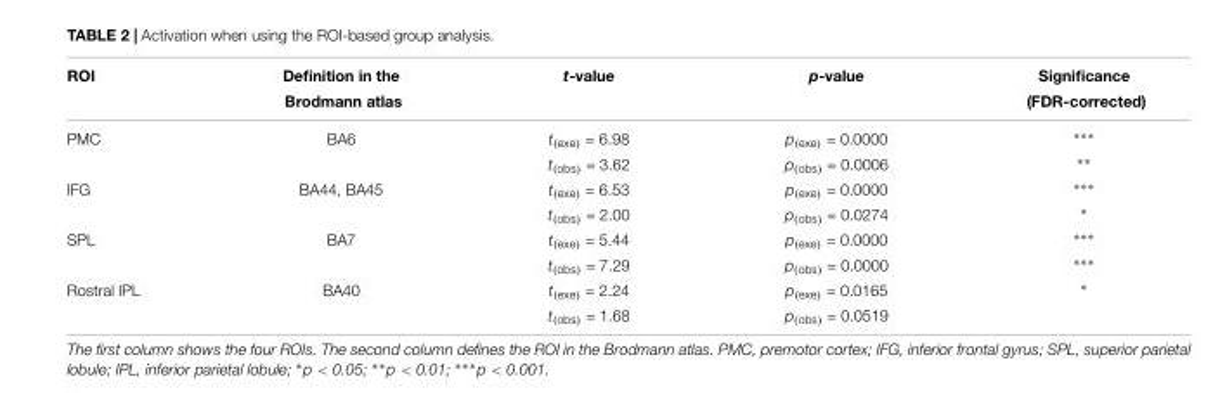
<table><thead><tr><td rowspan="2">ROI</td><td rowspan="2">Definition in the Brodmann atlas</td><td rowspan="2">t-value</td><td rowspan="2">p-value</td><td rowspan="2">Significance (FDR-corrected)</td></tr><tr></tr></thead><tbody><tr><td rowspan="2">PMC</td><td>BA6</td><td>t<sub>(exe)</sub> = 6.98</td><td>p<sub>(exe)</sub> = 0.0000</td><td>∗∗∗</td></tr><tr><td></td><td>t<sub>(obs)</sub> = 3.62</td><td>p<sub>(obs)</sub> = 0.0006</td><td>∗∗</td></tr><tr><td rowspan="2">IFG</td><td>BA44, BA45</td><td>t<sub>(exe)</sub> = 6.53</td><td>p<sub>(exe)</sub> = 0.0000</td><td>∗∗∗</td></tr><tr><td></td><td>t<sub>(obs)</sub> = 2.00</td><td>p<sub>(obs)</sub> = 0.0274</td><td>∗</td></tr><tr><td rowspan="2">SPL</td><td>BA7</td><td>t<sub>(exe)</sub> = 5.44</td><td>p<sub>(exe)</sub> = 0.0000</td><td>∗∗∗</td></tr><tr><td></td><td>t<sub>(obs)</sub> = 7.29</td><td>p<sub>(obs)</sub> = 0.0000</td><td>∗∗∗</td></tr><tr><td rowspan="2">Rostral IPL</td><td>BA40</td><td>t<sub>(exe)</sub> = 2.24</td><td>p<sub>(exe)</sub> = 0.0165</td><td>∗</td></tr><tr><td></td><td>t<sub>(obs)</sub> = 1.68</td><td>p<sub>(obs)</sub> = 0.0519</td><td></td></tr></tbody></table>